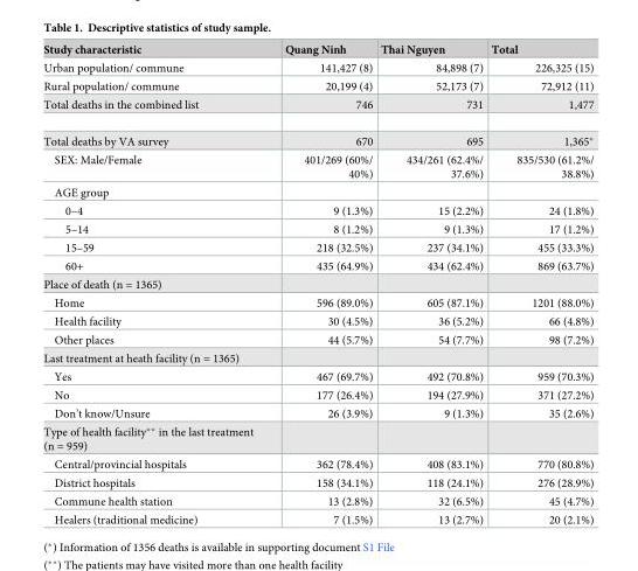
<table><thead><tr><td>Study characteristic</td><td>Quang Ninh</td><td>Thai Nguyen</td><td>Total</td></tr></thead><tbody><tr><td>Urban population/ commune</td><td>141,427 (8)</td><td>84,898 (7)</td><td>226,325 (15)</td></tr><tr><td>Rural population/ commune</td><td>20,199 (4)</td><td>52,173 (7)</td><td>72,912 (11)</td></tr><tr><td>Total deaths in the combined list</td><td>746</td><td>731</td><td>1,477</td></tr><tr><td>Total deaths by VA survey</td><td>670</td><td>695</td><td>1,365*</td></tr><tr><td>SEX: Male/Female</td><td>401/269 (60%/ 40%)</td><td>434/261 (62.4%/ 37.6%)</td><td>835/530 (61.2%/ 38.8%)</td></tr><tr><td colspan="4">AGE group</td></tr><tr><td>0–4</td><td>9 (1.3%)</td><td>15 (2.2%)</td><td>24 (1.8%)</td></tr><tr><td>5–14</td><td>8 (1.2%)</td><td>9 (1.3%)</td><td>17 (1.2%)</td></tr><tr><td>15–59</td><td>218 (32.5%)</td><td>237 (34.1%)</td><td>455 (33.3%)</td></tr><tr><td>60+</td><td>435 (64.9%)</td><td>434 (62.4%)</td><td>869 (63.7%)</td></tr><tr><td colspan="4">Place of death (n = 1365)</td></tr><tr><td>Home</td><td>596 (89.0%)</td><td>605 (87.1%)</td><td>1201 (88.0%)</td></tr><tr><td>Health facility</td><td>30 (4.5%)</td><td>36 (5.2%)</td><td>66 (4.8%)</td></tr><tr><td>Other places</td><td>44 (5.7%)</td><td>54 (7.7%)</td><td>98 (7.2%)</td></tr><tr><td colspan="4">Last treatment at heath facility (n = 1365)</td></tr><tr><td>Yes</td><td>467 (69.7%)</td><td>492 (70.8%)</td><td>959 (70.3%)</td></tr><tr><td>No</td><td>177 (26.4%)</td><td>194 (27.9%)</td><td>371 (27.2%)</td></tr><tr><td>Don’t know/Unsure</td><td>26 (3.9%)</td><td>9 (1.3%)</td><td>35 (2.6%)</td></tr><tr><td colspan="4">Type of health facility** in the last treatment (n = 959)</td></tr><tr><td>Central/provincial hospitals</td><td>362 (78.4%)</td><td>408 (83.1%)</td><td>770 (80.8%)</td></tr><tr><td>District hospitals</td><td>158 (34.1%)</td><td>118 (24.1%)</td><td>276 (28.9%)</td></tr><tr><td>Commune health station</td><td>13 (2.8%)</td><td>32 (6.5%)</td><td>45 (4.7%)</td></tr><tr><td>Healers (traditional medicine)</td><td>7 (1.5%)</td><td>13 (2.7%)</td><td>20 (2.1%)</td></tr></tbody></table>